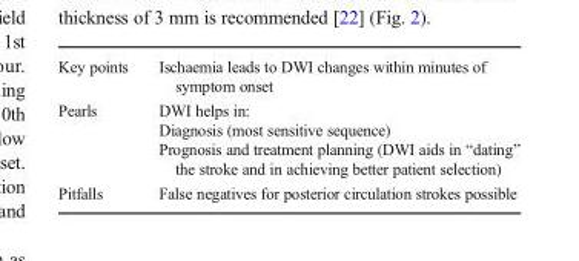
<table><tbody><tr><td>Key points</td><td>Ischaemia leads to DWI changes within minutes of symptom onset</td></tr><tr><td>Pearls</td><td>DWI helps in: Diagnosis (most sensitive sequence) Prognosis and treatment planning (DWI aids in “dating” the stroke and in achieving better patient selection)</td></tr><tr><td>Pitfalls</td><td>False negatives for posterior circulation strokes possible</td></tr></tbody></table>